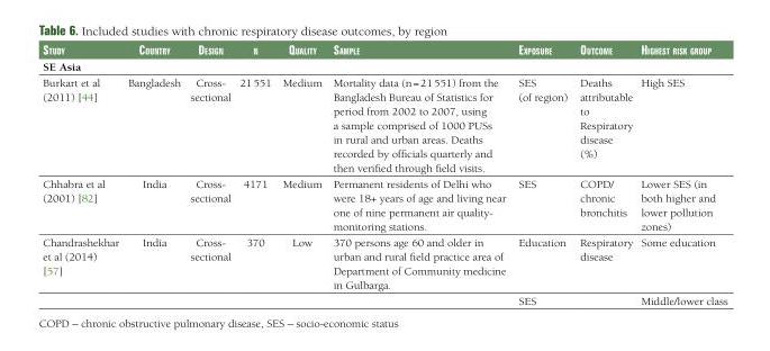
<table><thead><tr><td>Study</td><td>country</td><td>deSign</td><td>n</td><td>Quality</td><td>SamPle</td><td>exPoSure</td><td>outcome</td><td>higheSt riSk grouP</td></tr></thead><tbody><tr><td colspan="9">SE Asia</td></tr><tr><td>Burkart et al (2011) [44]</td><td>Bangladesh</td><td>Cross- sectional</td><td>21 551</td><td>Medium</td><td>Mortality data (n = 21 551) from the Bangladesh Bureau of Statistics for period from 2002 to 2007, using a sample comprised of 1000 PUSs in rural and urban areas. Deaths recorded by officials quarterly and then verified through field visits.</td><td>SES (of region)</td><td>Deaths attributable to Respiratory disease (%)</td><td>High SES</td></tr><tr><td>Chhabra et al (2001) [82]</td><td>India</td><td>Cross- sectional</td><td>4171</td><td>Medium</td><td>Permanent residents of Delhi who were 18+ years of age and living near one of nine permanent air quality- monitoring stations.</td><td>SES</td><td>COPD/ chronic bronchitis</td><td>Lower SES (in both higher and lower pollution zones)</td></tr><tr><td rowspan="2">Chandrashekhar et al (2014) [57]</td><td>India</td><td>Cross- sectional</td><td>370</td><td>Low</td><td>370 persons age 60 and older in urban and rural field practice area of Department of Community medicine in Gulbarga.</td><td>Education</td><td>Respiratory disease</td><td>Some education</td></tr><tr><td></td><td></td><td></td><td></td><td></td><td>SES</td><td></td><td>Middle/lower class</td></tr></tbody></table>